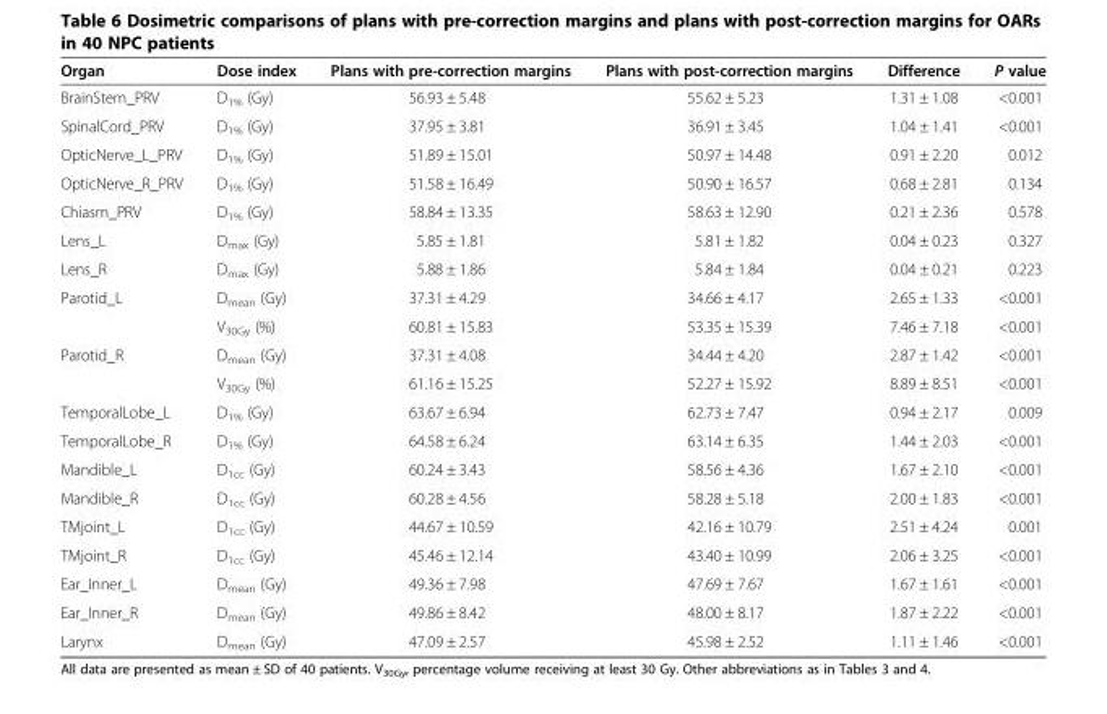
<table><thead><tr><td>Organ</td><td>Dose index</td><td>Plans with pre-correction margins</td><td>Plans with post-correction margins</td><td>Difference</td><td>P value</td></tr></thead><tbody><tr><td>BrainStem_PRV</td><td>D<sub>1%</sub> (Gy)</td><td>56.93 ± 5.48</td><td>55.62 ± 5.23</td><td>1.31 ± 1.08</td><td>&lt;0.001</td></tr><tr><td>SpinalCord_PRV</td><td>D<sub>1%</sub> (Gy)</td><td>37.95 ± 3.81</td><td>36.91 ± 3.45</td><td>1.04 ± 1.41</td><td>&lt;0.001</td></tr><tr><td>OpticNerve_L_PRV</td><td>D<sub>1%</sub> (Gy)</td><td>51.89 ± 15.01</td><td>50.97 ± 14.48</td><td>0.91 ± 2.20</td><td>0.012</td></tr><tr><td>OpticNerve_R_PRV</td><td>D<sub>1%</sub> (Gy)</td><td>51.58 ± 16.49</td><td>50.90 ± 16.57</td><td>0.68 ± 2.81</td><td>0.134</td></tr><tr><td>Chiasm_PRV</td><td>D<sub>1%</sub> (Gy)</td><td>58.84 ± 13.35</td><td>58.63 ± 12.90</td><td>0.21 ± 2.36</td><td>0.578</td></tr><tr><td>Lens_L</td><td>D<sub>max</sub> (Gy)</td><td>5.85 ± 1.81</td><td>5.81 ± 1.82</td><td>0.04 ± 0.23</td><td>0.327</td></tr><tr><td>Lens_R</td><td>D<sub>max</sub> (Gy)</td><td>5.88 ± 1.86</td><td>5.84 ± 1.84</td><td>0.04 ± 0.21</td><td>0.223</td></tr><tr><td rowspan="2">Parotid_L</td><td>D<sub>mean</sub> (Gy)</td><td>37.31 ± 4.29</td><td>34.66 ± 4.17</td><td>2.65 ± 1.33</td><td>&lt;0.001</td></tr><tr><td>V<sub>30Gy</sub> (%)</td><td>60.81 ± 15.83</td><td>53.35 ± 15.39</td><td>7.46 ± 7.18</td><td>&lt;0.001</td></tr><tr><td rowspan="2">Parotid_R</td><td>D<sub>mean</sub> (Gy)</td><td>37.31 ± 4.08</td><td>34.44 ± 4.20</td><td>2.87 ± 1.42</td><td>&lt;0.001</td></tr><tr><td>V<sub>30Gy</sub> (%)</td><td>61.16 ± 15.25</td><td>52.27 ± 15.92</td><td>8.89 ± 8.51</td><td>&lt;0.001</td></tr><tr><td>TemporalLobe_L</td><td>D<sub>1%</sub> (Gy)</td><td>63.67 ± 6.94</td><td>62.73 ± 7.47</td><td>0.94 ± 2.17</td><td>0.009</td></tr><tr><td>TemporalLobe_R</td><td>D<sub>1%</sub> (Gy)</td><td>64.58 ± 6.24</td><td>63.14 ± 6.35</td><td>1.44 ± 2.03</td><td>&lt;0.001</td></tr><tr><td>Mandible_L</td><td>D<sub>1cc</sub> (Gy)</td><td>60.24 ± 3.43</td><td>58.56 ± 4.36</td><td>1.67 ± 2.10</td><td>&lt;0.001</td></tr><tr><td>Mandible_R</td><td>D<sub>1cc</sub> (Gy)</td><td>60.28 ± 4.56</td><td>58.28 ± 5.18</td><td>2.00 ± 1.83</td><td>&lt;0.001</td></tr><tr><td>TMjoint_L</td><td>D<sub>1cc</sub> (Gy)</td><td>44.67 ± 10.59</td><td>42.16 ± 10.79</td><td>2.51 ± 4.24</td><td>0.001</td></tr><tr><td>TMjoint_R</td><td>D<sub>1cc</sub> (Gy)</td><td>45.46 ± 12.14</td><td>43.40 ± 10.99</td><td>2.06 ± 3.25</td><td>&lt;0.001</td></tr><tr><td>Ear_Inner_L</td><td>D<sub>mean</sub> (Gy)</td><td>49.36 ± 7.98</td><td>47.69 ± 7.67</td><td>1.67 ± 1.61</td><td>&lt;0.001</td></tr><tr><td>Ear_Inner_R</td><td>D<sub>mean</sub> (Gy)</td><td>49.86 ± 8.42</td><td>48.00 ± 8.17</td><td>1.87 ± 2.22</td><td>&lt;0.001</td></tr><tr><td>Larynx</td><td>D<sub>mean</sub> (Gy)</td><td>47.09 ± 2.57</td><td>45.98 ± 2.52</td><td>1.11 ± 1.46</td><td>&lt;0.001</td></tr></tbody></table>